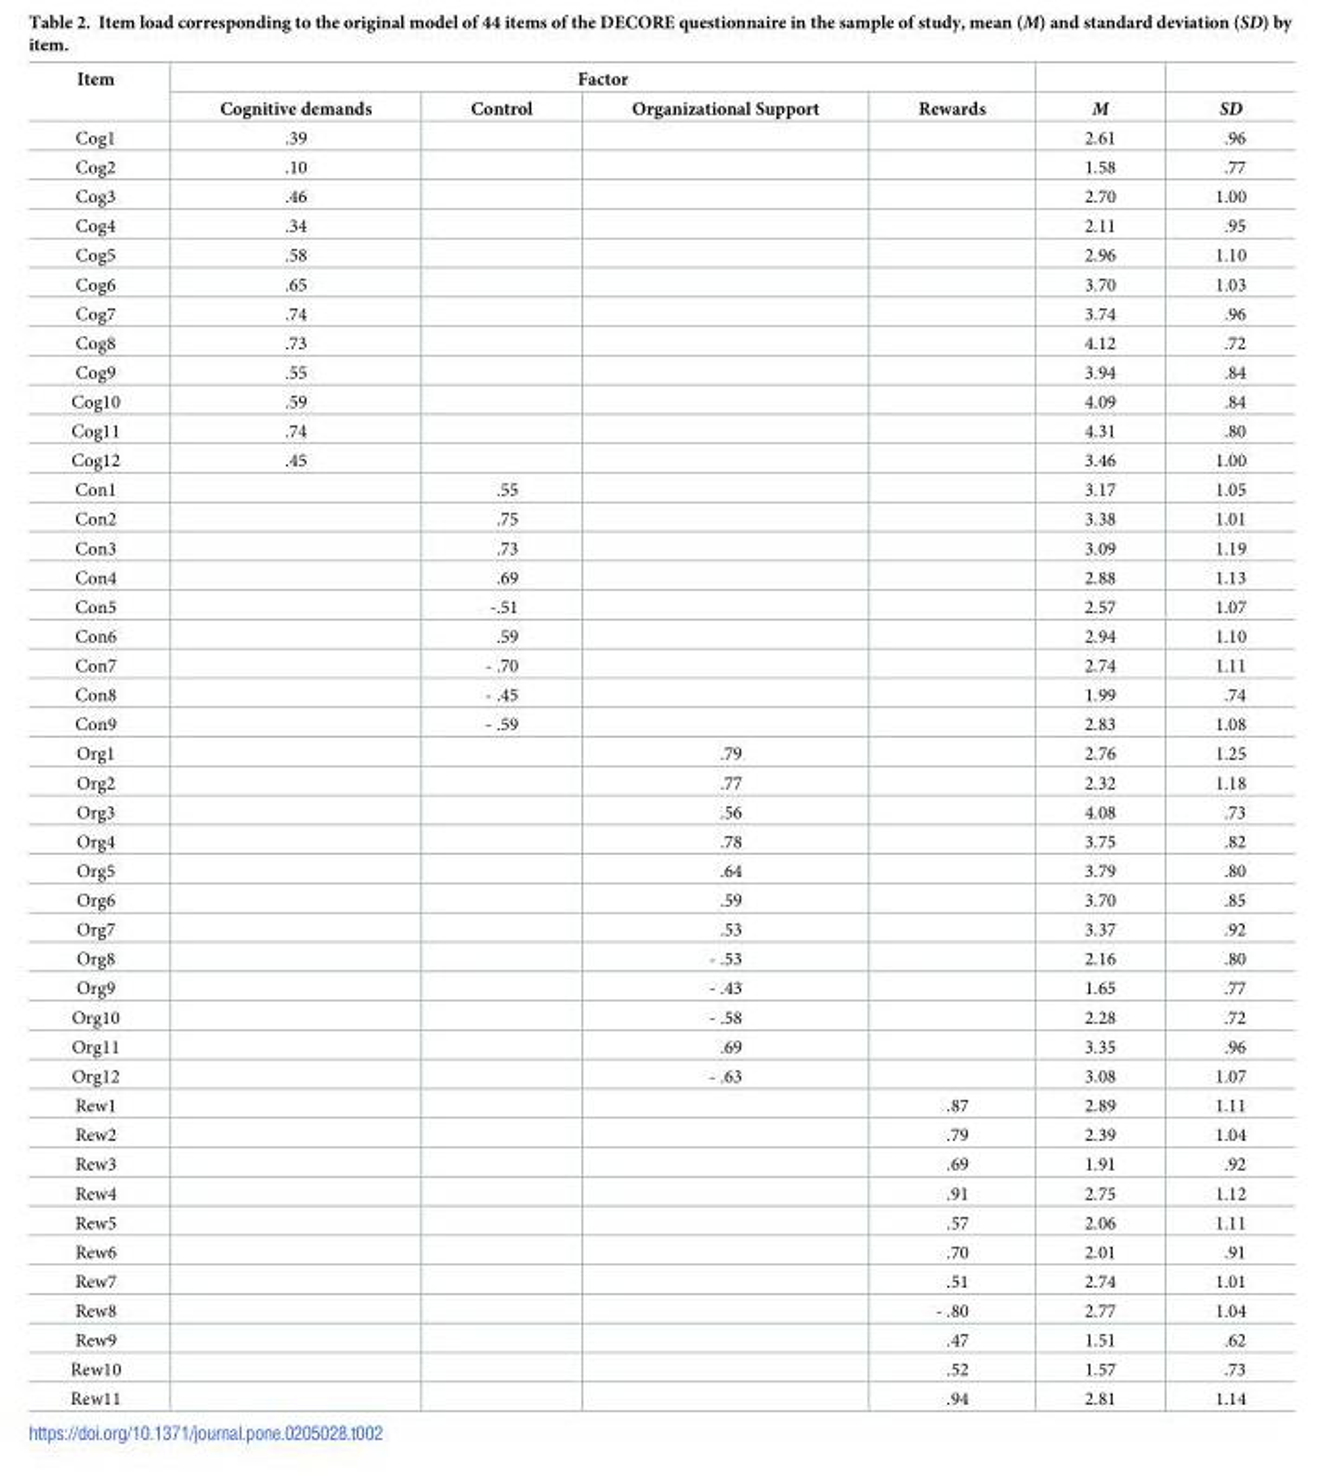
<table><thead><tr><td rowspan="2">Item</td><td colspan="4">Factor</td><td rowspan="2">M</td><td rowspan="2">SD</td></tr><tr><td>Cognitive demands</td><td>Control</td><td>Organizational Support</td><td>Rewards</td></tr></thead><tbody><tr><td>Cog1</td><td>.39</td><td></td><td></td><td></td><td>2.61</td><td>.96</td></tr><tr><td>Cog2</td><td>.10</td><td></td><td></td><td></td><td>1.58</td><td>.77</td></tr><tr><td>Cog3</td><td>.46</td><td></td><td></td><td></td><td>2.70</td><td>1.00</td></tr><tr><td>Cog4</td><td>.34</td><td></td><td></td><td></td><td>2.11</td><td>.95</td></tr><tr><td>Cog5</td><td>.58</td><td></td><td></td><td></td><td>2.96</td><td>1.10</td></tr><tr><td>Cog6</td><td>.65</td><td></td><td></td><td></td><td>3.70</td><td>1.03</td></tr><tr><td>Cog7</td><td>.74</td><td></td><td></td><td></td><td>3.74</td><td>.96</td></tr><tr><td>Cog8</td><td>.73</td><td></td><td></td><td></td><td>4.12</td><td>.72</td></tr><tr><td>Cog9</td><td>.55</td><td></td><td></td><td></td><td>3.94</td><td>.84</td></tr><tr><td>Cog10</td><td>.59</td><td></td><td></td><td></td><td>4.09</td><td>.84</td></tr><tr><td>Cog11</td><td>.74</td><td></td><td></td><td></td><td>4.31</td><td>.80</td></tr><tr><td>Cog12</td><td>.45</td><td></td><td></td><td></td><td>3.46</td><td>1.00</td></tr><tr><td>Con1</td><td></td><td>.55</td><td></td><td></td><td>3.17</td><td>1.05</td></tr><tr><td>Con2</td><td></td><td>.75</td><td></td><td></td><td>3.38</td><td>1.01</td></tr><tr><td>Con3</td><td></td><td>.73</td><td></td><td></td><td>3.09</td><td>1.19</td></tr><tr><td>Con4</td><td></td><td>.69</td><td></td><td></td><td>2.88</td><td>1.13</td></tr><tr><td>Con5</td><td></td><td>-.51</td><td></td><td></td><td>2.57</td><td>1.07</td></tr><tr><td>Con6</td><td></td><td>.59</td><td></td><td></td><td>2.94</td><td>1.10</td></tr><tr><td>Con7</td><td></td><td>- .70</td><td></td><td></td><td>2.74</td><td>1.11</td></tr><tr><td>Con8</td><td></td><td>- .45</td><td></td><td></td><td>1.99</td><td>.74</td></tr><tr><td>Con9</td><td></td><td>- .59</td><td></td><td></td><td>2.83</td><td>1.08</td></tr><tr><td>Org1</td><td></td><td></td><td>.79</td><td></td><td>2.76</td><td>1.25</td></tr><tr><td>Org2</td><td></td><td></td><td>.77</td><td></td><td>2.32</td><td>1.18</td></tr><tr><td>Org3</td><td></td><td></td><td>.56</td><td></td><td>4.08</td><td>.73</td></tr><tr><td>Org4</td><td></td><td></td><td>.78</td><td></td><td>3.75</td><td>.82</td></tr><tr><td>Org5</td><td></td><td></td><td>.64</td><td></td><td>3.79</td><td>.80</td></tr><tr><td>Org6</td><td></td><td></td><td>.59</td><td></td><td>3.70</td><td>.85</td></tr><tr><td>Org7</td><td></td><td></td><td>.53</td><td></td><td>3.37</td><td>.92</td></tr><tr><td>Org8</td><td></td><td></td><td>- .53</td><td></td><td>2.16</td><td>.80</td></tr><tr><td>Org9</td><td></td><td></td><td>- .43</td><td></td><td>1.65</td><td>.77</td></tr><tr><td>Org10</td><td></td><td></td><td>- .58</td><td></td><td>2.28</td><td>.72</td></tr><tr><td>Org11</td><td></td><td></td><td>.69</td><td></td><td>3.35</td><td>.96</td></tr><tr><td>Org12</td><td></td><td></td><td>- .63</td><td></td><td>3.08</td><td>1.07</td></tr><tr><td>Rew1</td><td></td><td></td><td></td><td>.87</td><td>2.89</td><td>1.11</td></tr><tr><td>Rew2</td><td></td><td></td><td></td><td>.79</td><td>2.39</td><td>1.04</td></tr><tr><td>Rew3</td><td></td><td></td><td></td><td>.69</td><td>1.91</td><td>.92</td></tr><tr><td>Rew4</td><td></td><td></td><td></td><td>.91</td><td>2.75</td><td>1.12</td></tr><tr><td>Rew5</td><td></td><td></td><td></td><td>.57</td><td>2.06</td><td>1.11</td></tr><tr><td>Rew6</td><td></td><td></td><td></td><td>.70</td><td>2.01</td><td>.91</td></tr><tr><td>Rew7</td><td></td><td></td><td></td><td>.51</td><td>2.74</td><td>1.01</td></tr><tr><td>Rew8</td><td></td><td></td><td></td><td>- .80</td><td>2.77</td><td>1.04</td></tr><tr><td>Rew9</td><td></td><td></td><td></td><td>.47</td><td>1.51</td><td>.62</td></tr><tr><td>Rew10</td><td></td><td></td><td></td><td>.52</td><td>1.57</td><td>.73</td></tr><tr><td>Rew11</td><td></td><td></td><td></td><td>.94</td><td>2.81</td><td>1.14</td></tr></tbody></table>